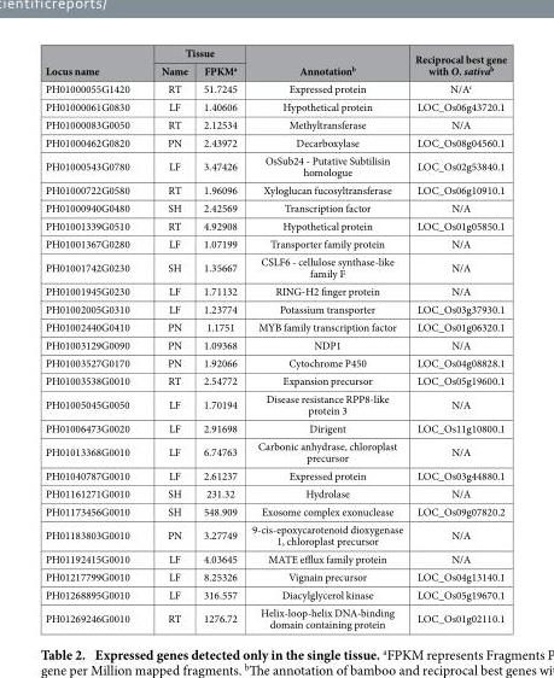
<table><thead><tr><td rowspan="2">Locus name</td><td colspan="2">Tissue</td><td rowspan="2">Annotation<sup>b</sup></td><td rowspan="2">Reciprocal best gene with O. sativa<sup>b</sup></td></tr><tr><td>Name</td><td>FPKM<sup>a</sup></td></tr></thead><tbody><tr><td>PH01000055G1420</td><td>RT</td><td>51.7245</td><td>Expressed protein</td><td>N/A<sup>c</sup></td></tr><tr><td>PH01000061G0830</td><td>LF</td><td>1.40606</td><td>Hypothetical protein</td><td>LOC_Os06g43720.1</td></tr><tr><td>PH01000083G0050</td><td>RT</td><td>2.12534</td><td>Methyltransferase</td><td>N/A</td></tr><tr><td>PH01000462G0820</td><td>PN</td><td>2.43972</td><td>Decarboxylase</td><td>LOC_Os08g04560.1</td></tr><tr><td>PH01000543G0780</td><td>LF</td><td>3.47426</td><td>OsSub24 - Putative Subtilisin homologue</td><td>LOC_Os02g53840.1</td></tr><tr><td>PH01000722G0580</td><td>RT</td><td>1.96096</td><td>Xyloglucan fucosyltransferase</td><td>LOC_Os06g10910.1</td></tr><tr><td>PH01000940G0480</td><td>SH</td><td>2.42569</td><td>Transcription factor</td><td>N/A</td></tr><tr><td>PH01001339G0510</td><td>RT</td><td>4.92908</td><td>Hypothetical protein</td><td>LOC_Os01g05850.1</td></tr><tr><td>PH01001367G0280</td><td>LF</td><td>1.07199</td><td>Transporter family protein</td><td>N/A</td></tr><tr><td>PH01001742G0230</td><td>SH</td><td>1.35667</td><td>CSLF6 - cellulose synthase-like family F</td><td>N/A</td></tr><tr><td>PH01001945G0230</td><td>LF</td><td>1.71132</td><td>RING-H2 finger protein</td><td>N/A</td></tr><tr><td>PH01002005G0310</td><td>LF</td><td>1.23774</td><td>Potassium transporter</td><td>LOC_Os03g37930.1</td></tr><tr><td>PH01002440G0410</td><td>PN</td><td>1.1751</td><td>MYB family transcription factor</td><td>LOC_Os01g06320.1</td></tr><tr><td>PH01003129G0090</td><td>PN</td><td>1.09368</td><td>NDP1</td><td>N/A</td></tr><tr><td>PH01003527G0170</td><td>PN</td><td>1.92066</td><td>Cytochrome P450</td><td>LOC_Os04g08828.1</td></tr><tr><td>PH01003538G0010</td><td>RT</td><td>2.54772</td><td>Expansion precursor</td><td>LOC_Os05g19600.1</td></tr><tr><td>PH01005045G0050</td><td>LF</td><td>1.70194</td><td>Disease resistance RPP8-like protein 3</td><td>N/A</td></tr><tr><td>PH01006473G0020</td><td>LF</td><td>2.91698</td><td>Dirigent</td><td>LOC_Os11g10800.1</td></tr><tr><td>PH01013368G0010</td><td>LF</td><td>6.74763</td><td>Carbonic anhydrase, chloroplast precursor</td><td>N/A</td></tr><tr><td>PH01040787G0010</td><td>LF</td><td>2.61237</td><td>Expressed protein</td><td>LOC_Os03g44880.1</td></tr><tr><td>PH01161271G0010</td><td>SH</td><td>231.32</td><td>Hydrolase</td><td>N/A</td></tr><tr><td>PH01173456G0010</td><td>SH</td><td>548.909</td><td>Exosome complex exonuclease</td><td>LOC_Os09g07820.2</td></tr><tr><td>PH01183803G0010</td><td>PN</td><td>3.27749</td><td>9-cis-epoxycarotenoid dioxygenase 1, chloroplast precursor</td><td>N/A</td></tr><tr><td>PH01192415G0010</td><td>LF</td><td>4.03645</td><td>MATE efflux family protein</td><td>N/A</td></tr><tr><td>PH01217799G0010</td><td>LF</td><td>8.25326</td><td>Vignain precursor</td><td>LOC_Os04g13140.1</td></tr><tr><td>PH01268895G0010</td><td>LF</td><td>316.557</td><td>Diacylglycerol kinase</td><td>LOC_Os05g19670.1</td></tr><tr><td>PH01269246G0010</td><td>RT</td><td>1276.72</td><td>Helix-loop-helix DNA-binding domain containing protein</td><td>LOC_Os01g02110.1</td></tr></tbody></table>